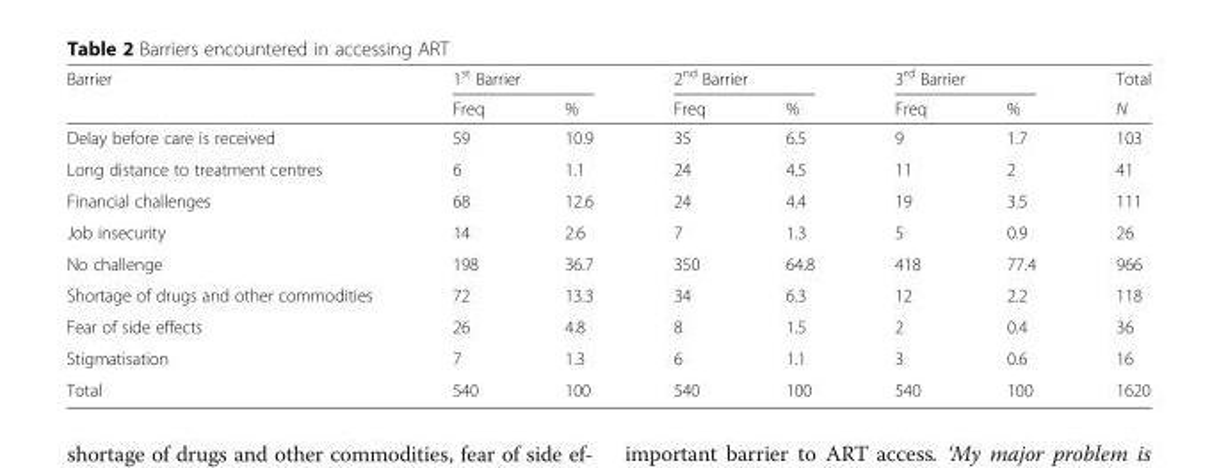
<table><thead><tr><td rowspan="2">Barrier</td><td colspan="2">1<sup>st</sup> Barrier</td><td colspan="2">2<sup>nd</sup> Barrier</td><td colspan="2">3<sup>rd</sup> Barrier</td><td rowspan="2">Total N</td></tr><tr><td>Freq</td><td>%</td><td>Freq</td><td>%</td><td>Freq</td><td>%</td></tr></thead><tbody><tr><td>Delay before care is received</td><td>59</td><td>10.9</td><td>35</td><td>6.5</td><td>9</td><td>1.7</td><td>103</td></tr><tr><td>Long distance to treatment centres</td><td>6</td><td>1.1</td><td>24</td><td>4.5</td><td>11</td><td>2</td><td>41</td></tr><tr><td>Financial challenges</td><td>68</td><td>12.6</td><td>24</td><td>4.4</td><td>19</td><td>3.5</td><td>111</td></tr><tr><td>Job insecurity</td><td>14</td><td>2.6</td><td>7</td><td>1.3</td><td>5</td><td>0.9</td><td>26</td></tr><tr><td>No challenge</td><td>198</td><td>36.7</td><td>350</td><td>64.8</td><td>418</td><td>77.4</td><td>966</td></tr><tr><td>Shortage of drugs and other commodities</td><td>72</td><td>13.3</td><td>34</td><td>6.3</td><td>12</td><td>2.2</td><td>118</td></tr><tr><td>Fear of side effects</td><td>26</td><td>4.8</td><td>8</td><td>1.5</td><td>2</td><td>0.4</td><td>36</td></tr><tr><td>Stigmatisation</td><td>7</td><td>1.3</td><td>6</td><td>1.1</td><td>3</td><td>0.6</td><td>16</td></tr><tr><td>Total</td><td>540</td><td>100</td><td>540</td><td>100</td><td>540</td><td>100</td><td>1620</td></tr></tbody></table>